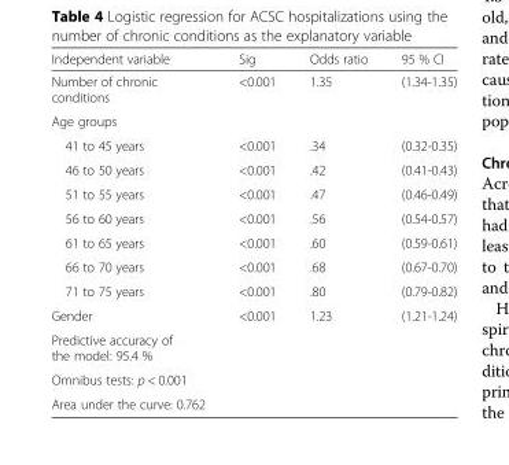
<table><thead><tr><td>Independent variable</td><td>Sig</td><td>Odds ratio</td><td>95 % CI</td></tr></thead><tbody><tr><td>Number of chronic conditions</td><td>&lt;0.001</td><td>1.35</td><td>(1.34-1.35)</td></tr><tr><td colspan="4">Age groups</td></tr><tr><td>41 to 45 years</td><td>&lt;0.001</td><td>.34</td><td>(0.32-0.35)</td></tr><tr><td>46 to 50 years</td><td>&lt;0.001</td><td>.42</td><td>(0.41-0.43)</td></tr><tr><td>51 to 55 years</td><td>&lt;0.001</td><td>.47</td><td>(0.46-0.49)</td></tr><tr><td>56 to 60 years</td><td>&lt;0.001</td><td>.56</td><td>(0.54-0.57)</td></tr><tr><td>61 to 65 years</td><td>&lt;0.001</td><td>.60</td><td>(0.59-0.61)</td></tr><tr><td>66 to 70 years</td><td>&lt;0.001</td><td>.68</td><td>(0.67-0.70)</td></tr><tr><td>71 to 75 years</td><td>&lt;0.001</td><td>.80</td><td>(0.79-0.82)</td></tr><tr><td>Gender</td><td>&lt;0.001</td><td>1.23</td><td>(1.21-1.24)</td></tr><tr><td colspan="4">Predictive accuracy of the model: 95.4 %</td></tr><tr><td colspan="4">Omnibus tests: p &lt; 0.001</td></tr><tr><td>Area under the curve: 0.762</td><td></td><td></td><td></td></tr></tbody></table>